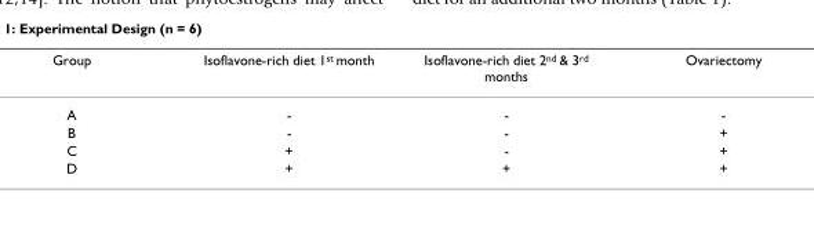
<table><thead><tr><td>Group</td><td>Isoflavone-rich diet 1<sup>st</sup> month</td><td>Isoflavone-rich diet 2<sup>nd</sup> &amp; 3<sup>rd</sup> months</td><td>Ovariectomy</td></tr></thead><tbody><tr><td>A</td><td>-</td><td>-</td><td>-</td></tr><tr><td>B</td><td>-</td><td>-</td><td>+</td></tr><tr><td>C</td><td>+</td><td>-</td><td>+</td></tr><tr><td>D</td><td>+</td><td>+</td><td>+</td></tr></tbody></table>